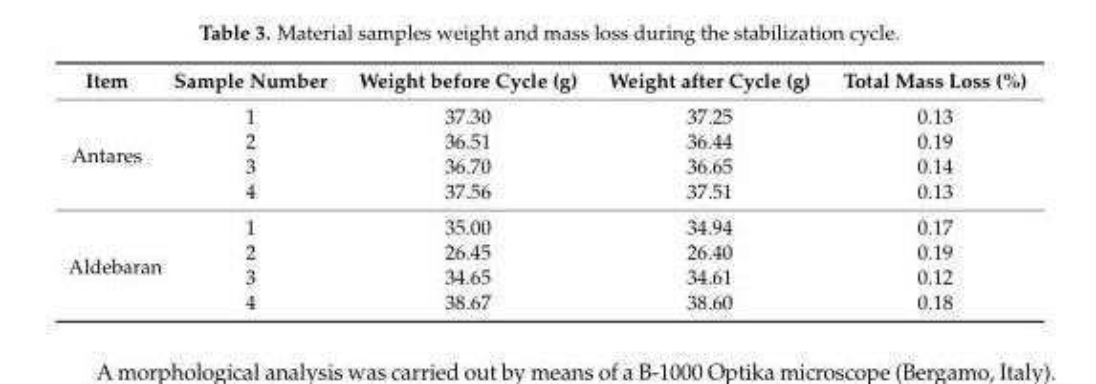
<table><thead><tr><td>Item</td><td>Sample Number</td><td>Weight before Cycle (g)</td><td>Weight after Cycle (g)</td><td>Total Mass Loss (%)</td></tr></thead><tbody><tr><td rowspan="4">Antares</td><td>1</td><td>37.30</td><td>37.25</td><td>0.13</td></tr><tr><td>2</td><td>36.51</td><td>36.44</td><td>0.19</td></tr><tr><td>3</td><td>36.70</td><td>36.65</td><td>0.14</td></tr><tr><td>4</td><td>37.56</td><td>37.51</td><td>0.13</td></tr><tr><td rowspan="4">Aldebaran</td><td>1</td><td>35.00</td><td>34.94</td><td>0.17</td></tr><tr><td>2</td><td>26.45</td><td>26.40</td><td>0.19</td></tr><tr><td>3</td><td>34.65</td><td>34.61</td><td>0.12</td></tr><tr><td>4</td><td>38.67</td><td>38.60</td><td>0.18</td></tr></tbody></table>